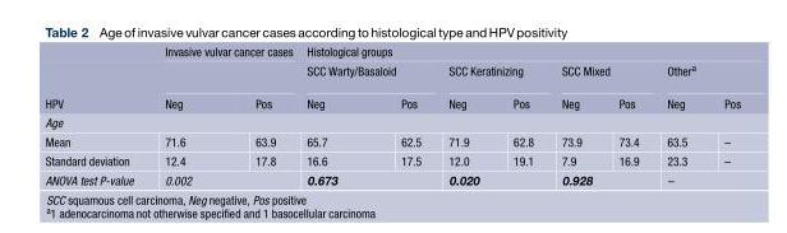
<table><thead><tr><td rowspan="3">HPV</td><td colspan="2">Invasive vulvar cancer cases</td><td colspan="8">Histological groups</td></tr><tr><td rowspan="2">Neg</td><td rowspan="2">Pos</td><td colspan="2">SCC Warty/Basaloid</td><td colspan="2">SCC Keratinizing</td><td colspan="2">SCC Mixed</td><td colspan="2">Other<sup>a</sup></td></tr><tr><td>Neg</td><td>Pos</td><td>Neg</td><td>Pos</td><td>Neg</td><td>Pos</td><td>Neg</td><td>Pos</td></tr></thead><tbody><tr><td colspan="11">Age</td></tr><tr><td>Mean</td><td>71.6</td><td>63.9</td><td>65.7</td><td>62.5</td><td>71.9</td><td>62.8</td><td>73.9</td><td>73.4</td><td>63.5</td><td>–</td></tr><tr><td>Standard deviation</td><td>12.4</td><td>17.8</td><td>16.6</td><td>17.5</td><td>12.0</td><td>19.1</td><td>7.9</td><td>16.9</td><td>23.3</td><td>–</td></tr><tr><td>ANOVA test P-value</td><td colspan="2">0.002</td><td colspan="2">0.673</td><td colspan="2">0.020</td><td colspan="2">0.928</td><td colspan="2">–</td></tr></tbody></table>